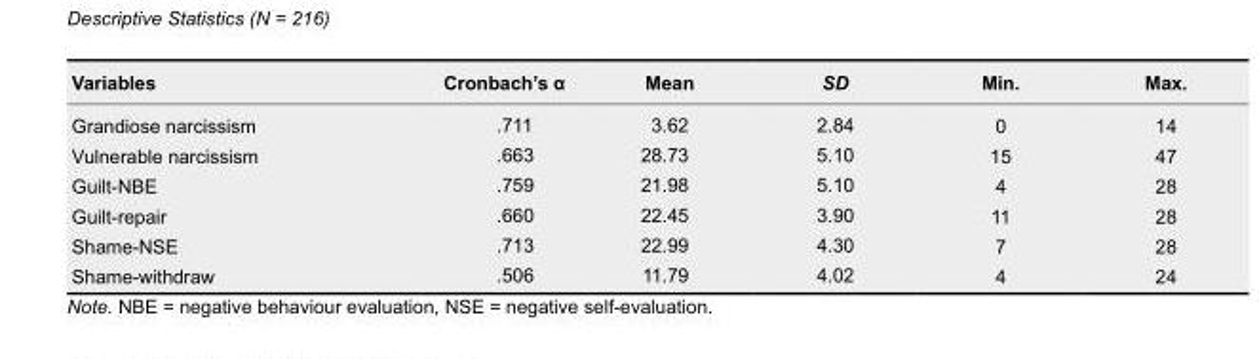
<table><thead><tr><td>Variables</td><td>Cronbach’s α</td><td>Mean</td><td>SD</td><td>Min.</td><td>Max.</td></tr></thead><tbody><tr><td>Grandiose narcissism</td><td>.711</td><td>3.62</td><td>2.84</td><td>0</td><td>14</td></tr><tr><td>Vulnerable narcissism</td><td>.663</td><td>28.73</td><td>5.10</td><td>15</td><td>47</td></tr><tr><td>Guilt-NBE</td><td>.759</td><td>21.98</td><td>5.10</td><td>4</td><td>28</td></tr><tr><td>Guilt-repair</td><td>.660</td><td>22.45</td><td>3.90</td><td>11</td><td>28</td></tr><tr><td>Shame-NSE</td><td>.713</td><td>22.99</td><td>4.30</td><td>7</td><td>28</td></tr><tr><td>Shame-withdraw</td><td>.506</td><td>11.79</td><td>4.02</td><td>4</td><td>24</td></tr></tbody></table>